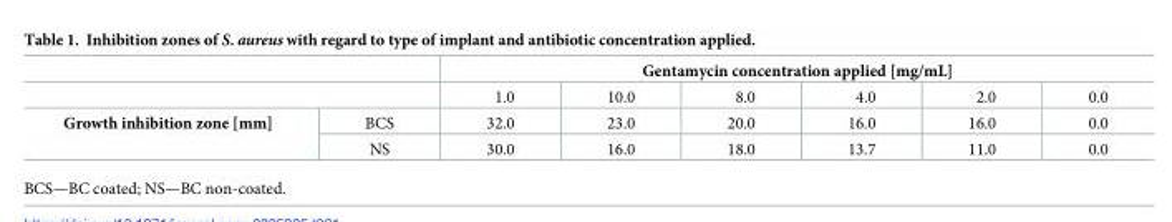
<table><thead><tr><td></td><td></td><td colspan="6">Gentamycin concentration applied [mg/mL]</td></tr><tr><td colspan="2"></td><td>1.0</td><td>10.0</td><td>8.0</td><td>4.0</td><td>2.0</td><td>0.0</td></tr></thead><tbody><tr><td rowspan="2">Growth inhibition zone [mm]</td><td>BCS</td><td>32.0</td><td>23.0</td><td>20.0</td><td>16.0</td><td>16.0</td><td>0.0</td></tr><tr><td>NS</td><td>30.0</td><td>16.0</td><td>18.0</td><td>13.7</td><td>11.0</td><td>0.0</td></tr></tbody></table>